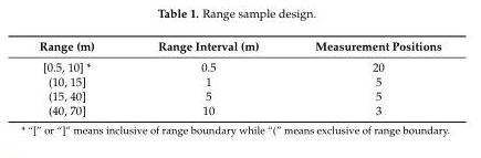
<table><thead><tr><td>Range (m)</td><td>Range Interval (m)</td><td>Measurement Positions</td></tr></thead><tbody><tr><td>[0.5, 10] *</td><td>0.5</td><td>20</td></tr><tr><td>(10, 15]</td><td>1</td><td>5</td></tr><tr><td>(15, 40]</td><td>5</td><td>5</td></tr><tr><td>(40, 70]</td><td>10</td><td>3</td></tr></tbody></table>